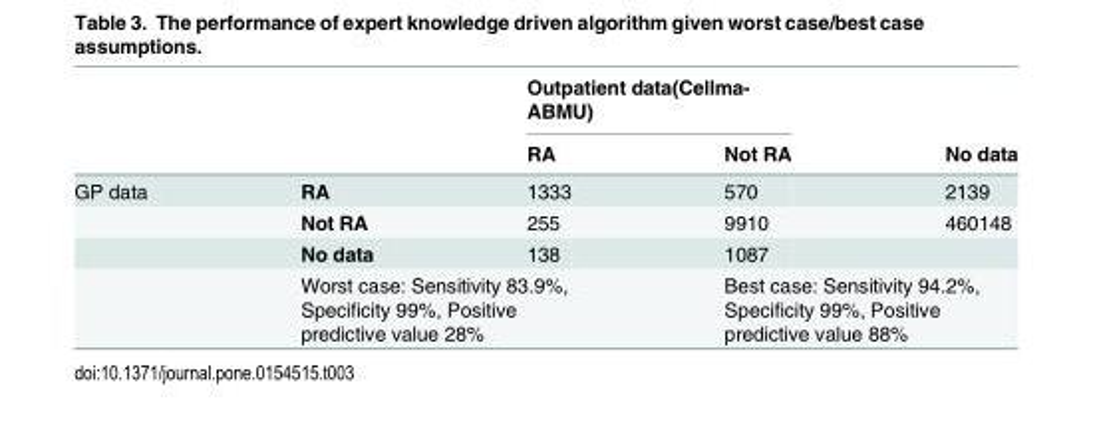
<table><thead><tr><td rowspan="2"></td><td rowspan="2"></td><td colspan="2">Outpatient data(Cellma- ABMU)</td><td rowspan="2">No data</td></tr><tr><td>RA</td><td>Not RA</td></tr></thead><tbody><tr><td rowspan="4">GP data</td><td>RA</td><td>1333</td><td>570</td><td>2139</td></tr><tr><td>Not RA</td><td>255</td><td>9910</td><td>460148</td></tr><tr><td>No data</td><td>138</td><td>1087</td><td></td></tr><tr><td colspan="2">Worst case: Sensitivity 83.9%, Specificity 99%, Positive predictive value 28%</td><td colspan="2">Best case: Sensitivity 94.2%, Specificity 99%, Positive predictive value 88%</td></tr></tbody></table>